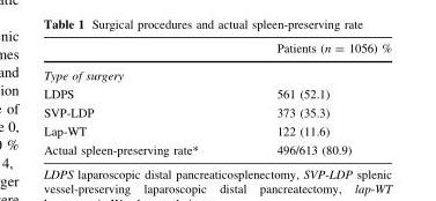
<table><thead><tr><td></td><td>Patients (n = 1056) %</td></tr></thead><tbody><tr><td colspan="2">Type of surgery</td></tr><tr><td>LDPS</td><td>561 (52.1)</td></tr><tr><td>SVP-LDP</td><td>373 (35.3)</td></tr><tr><td>Lap-WT</td><td>122 (11.6)</td></tr><tr><td>Actual spleen-preserving rate*</td><td>496/613 (80.9)</td></tr></tbody></table>